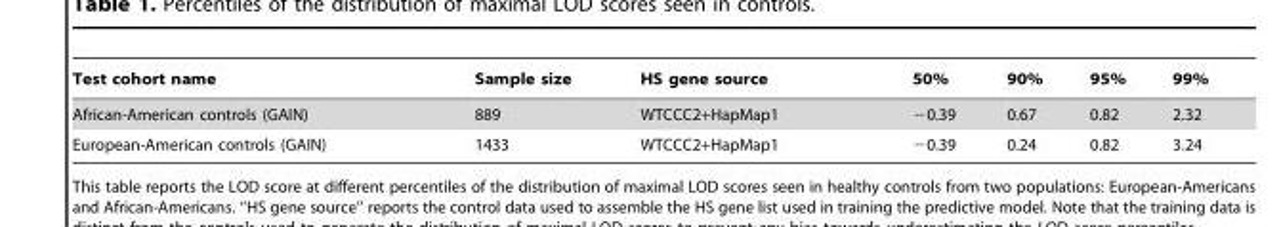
<table><thead><tr><td>Test cohort name</td><td>Sample size</td><td>HS gene source</td><td>50%</td><td>90%</td><td>95%</td><td>99%</td></tr></thead><tbody><tr><td>African-American controls (GAIN)</td><td>889</td><td>WTCCC2+HapMap1</td><td>−0.39</td><td>0.67</td><td>0.82</td><td>2.32</td></tr><tr><td>European-American controls (GAIN)</td><td>1433</td><td>WTCCC2+HapMap1</td><td>−0.39</td><td>0.24</td><td>0.82</td><td>3.24</td></tr></tbody></table>